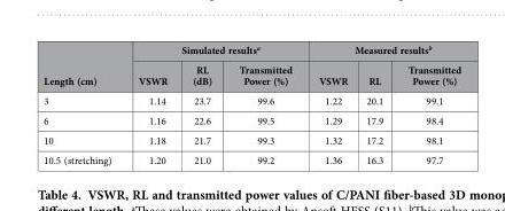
<table><thead><tr><td rowspan="2">Length (cm)</td><td colspan="3">Simulated results<sup>a</sup></td><td colspan="3">Measured results<sup>b</sup></td></tr><tr><td>VSWR</td><td>RL (dB)</td><td>Transmitted Power (%)</td><td>VSWR</td><td>RL</td><td>Transmitted Power (%)</td></tr></thead><tbody><tr><td>3</td><td>1.14</td><td>23.7</td><td>99.6</td><td>1.22</td><td>20.1</td><td>99.1</td></tr><tr><td>6</td><td>1.16</td><td>22.6</td><td>99.5</td><td>1.29</td><td>17.9</td><td>98.4</td></tr><tr><td>10</td><td>1.18</td><td>21.7</td><td>99.3</td><td>1.32</td><td>17.2</td><td>98.1</td></tr><tr><td>10.5 (stretching)</td><td>1.20</td><td>21.0</td><td>99.2</td><td>1.36</td><td>16.3</td><td>97.7</td></tr></tbody></table>